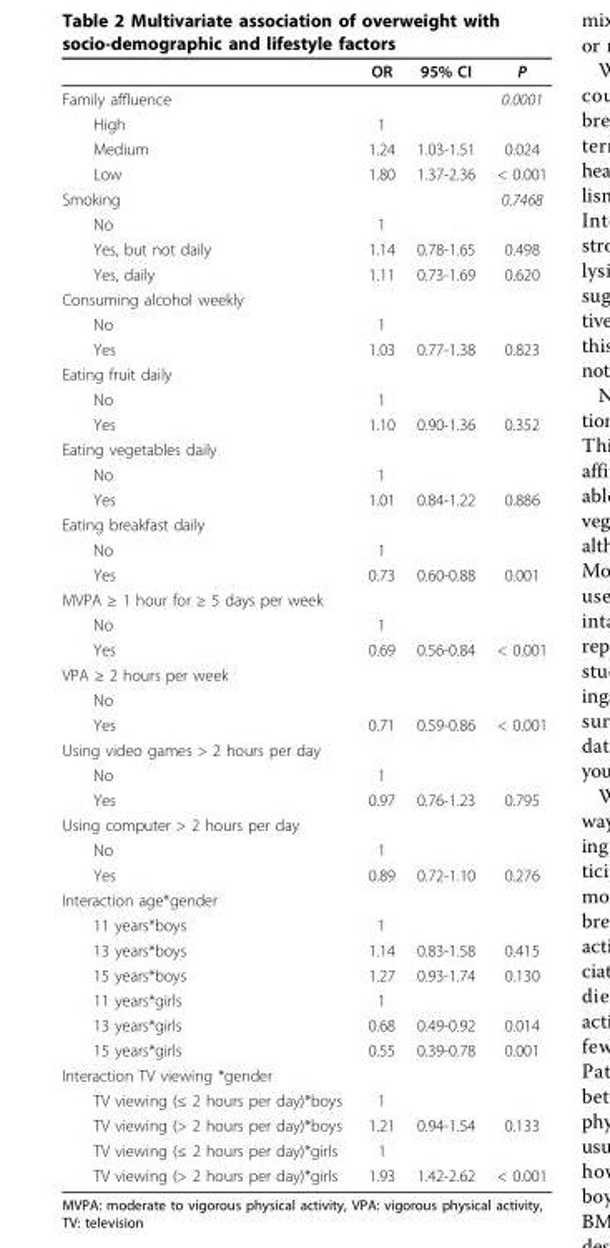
<table><thead><tr><td></td><td>OR</td><td>95% CI</td><td>P</td></tr></thead><tbody><tr><td>Family affluence</td><td></td><td></td><td>0.0001</td></tr><tr><td>High</td><td>1</td><td></td><td></td></tr><tr><td>Medium</td><td>1.24</td><td>1.03-1.51</td><td>0.024</td></tr><tr><td>Low</td><td>1.80</td><td>1.37-2.36</td><td>&lt; 0.001</td></tr><tr><td>Smoking</td><td></td><td></td><td>0.7468</td></tr><tr><td>No</td><td>1</td><td></td><td></td></tr><tr><td>Yes, but not daily</td><td>1.14</td><td>0.78-1.65</td><td>0.498</td></tr><tr><td>Yes, daily</td><td>1.11</td><td>0.73-1.69</td><td>0.620</td></tr><tr><td colspan="4">Consuming alcohol weekly</td></tr><tr><td>No</td><td>1</td><td></td><td></td></tr><tr><td>Yes</td><td>1.03</td><td>0.77-1.38</td><td>0.823</td></tr><tr><td colspan="4">Eating fruit daily</td></tr><tr><td>No</td><td>1</td><td></td><td></td></tr><tr><td>Yes</td><td>1.10</td><td>0.90-1.36</td><td>0.352</td></tr><tr><td colspan="4">Eating vegetables daily</td></tr><tr><td>No</td><td>1</td><td></td><td></td></tr><tr><td>Yes</td><td>1.01</td><td>0.84-1.22</td><td>0.886</td></tr><tr><td colspan="4">Eating breakfast daily</td></tr><tr><td>No</td><td>1</td><td></td><td></td></tr><tr><td>Yes</td><td>0.73</td><td>0.60-0.88</td><td>0.001</td></tr><tr><td colspan="4">MVPA ≥ 1 hour for ≥ 5 days per week</td></tr><tr><td>No</td><td>1</td><td></td><td></td></tr><tr><td>Yes</td><td>0.69</td><td>0.56-0.84</td><td>&lt; 0.001</td></tr><tr><td colspan="4">VPA ≥ 2 hours per week</td></tr><tr><td colspan="4">No</td></tr><tr><td>Yes</td><td>0.71</td><td>0.59-0.86</td><td>&lt; 0.001</td></tr><tr><td colspan="4">Using video games &gt; 2 hours per day</td></tr><tr><td>No</td><td>1</td><td></td><td></td></tr><tr><td>Yes</td><td>0.97</td><td>0.76-1.23</td><td>0.795</td></tr><tr><td colspan="4">Using computer &gt; 2 hours per day</td></tr><tr><td>No</td><td>1</td><td></td><td></td></tr><tr><td>Yes</td><td>0.89</td><td>0.72-1.10</td><td>0.276</td></tr><tr><td colspan="4">Interaction age*gender</td></tr><tr><td>11 years*boys</td><td>1</td><td></td><td></td></tr><tr><td>13 years*boys</td><td>1.14</td><td>0.83-1.58</td><td>0.415</td></tr><tr><td>15 years*boys</td><td>1.27</td><td>0.93-1.74</td><td>0.130</td></tr><tr><td>11 years*girls</td><td>1</td><td></td><td></td></tr><tr><td>13 years*girls</td><td>0.68</td><td>0.49-0.92</td><td>0.014</td></tr><tr><td>15 years*girls</td><td>0.55</td><td>0.39-0.78</td><td>0.001</td></tr><tr><td colspan="4">Interaction TV viewing *gender</td></tr><tr><td>TV viewing (≤ 2 hours per day)*boys</td><td>1</td><td></td><td></td></tr><tr><td>TV viewing (&gt; 2 hours per day)*boys</td><td>1.21</td><td>0.94-1.54</td><td>0.133</td></tr><tr><td>TV viewing (≤ 2 hours per day)*girls</td><td>1</td><td></td><td></td></tr><tr><td>TV viewing (&gt; 2 hours per day)*girls</td><td>1.93</td><td>1.42-2.62</td><td>&lt; 0.001</td></tr></tbody></table>